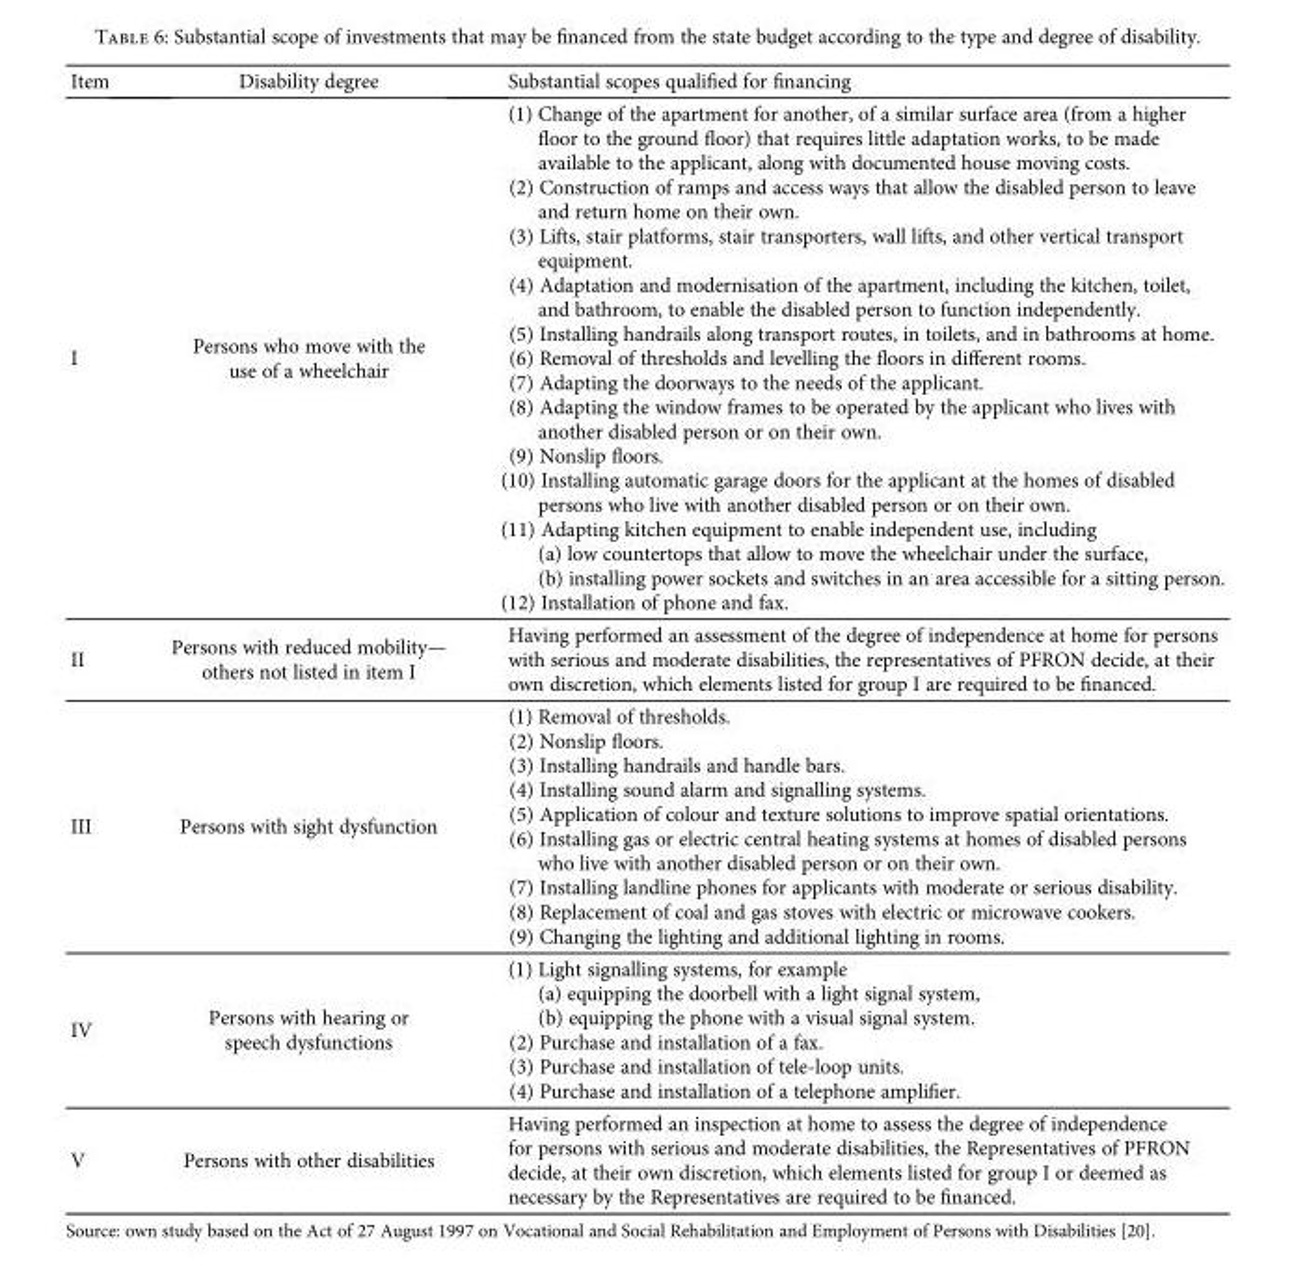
<table><thead><tr><td>Item</td><td>Disability degree</td><td>Substantial scopes qualified for financing</td></tr></thead><tbody><tr><td>I</td><td>Persons who move with the use of a wheelchair</td><td>(1) Change of the apartment for another, of a similar surface area (from a higher floor to the ground floor) that requires little adaptation works, to be made available to the applicant, along with documented house moving costs. (2) Construction of ramps and access ways that allow the disabled person to leave and return home on their own. (3) Lifts, stair platforms, stair transporters, wall lifts, and other vertical transport equipment. (4) Adaptation and modernisation of the apartment, including the kitchen, toilet, and bathroom, to enable the disabled person to function independently. (5) Installing handrails along transport routes, in toilets, and in bathrooms at home. (6) Removal of thresholds and levelling the floors in different rooms. (7) Adapting the doorways to the needs of the applicant. (8) Adapting the window frames to be operated by the applicant who lives with another disabled person or on their own. (9) Nonslip floors. (10) Installing automatic garage doors for the applicant at the homes of disabled persons who live with another disabled person or on their own. (11) Adapting kitchen equipment to enable independent use, including (a) low countertops that allow to move the wheelchair under the surface, (b) installing power sockets and switches in an area accessible for a sitting person. (12) Installation of phone and fax.</td></tr><tr><td>II</td><td>Persons with reduced mobility— others not listed in item I</td><td>Having performed an assessment of the degree of independence at home for persons with serious and moderate disabilities, the representatives of PFRON decide, at their own discretion, which elements listed for group I are required to be financed.</td></tr><tr><td>III</td><td>Persons with sight dysfunction</td><td>(1) Removal of thresholds. (2) Nonslip floors. (3) Installing handrails and handle bars. (4) Installing sound alarm and signalling systems. (5) Application of colour and texture solutions to improve spatial orientations. (6) Installing gas or electric central heating systems at homes of disabled persons who live with another disabled person or on their own. (7) Installing landline phones for applicants with moderate or serious disability. (8) Replacement of coal and gas stoves with electric or microwave cookers. (9) Changing the lighting and additional lighting in rooms.</td></tr><tr><td>IV</td><td>Persons with hearing or speech dysfunctions</td><td>(1) Light signalling systems, for example (a) equipping the doorbell with a light signal system, (b) equipping the phone with a visual signal system. (2) Purchase and installation of a fax. (3) Purchase and installation of tele-loop units. (4) Purchase and installation of a telephone amplifier.</td></tr><tr><td>V</td><td>Persons with other disabilities</td><td>Having performed an inspection at home to assess the degree of independence for persons with serious and moderate disabilities, the Representatives of PFRON decide, at their own discretion, which elements listed for group I or deemed as necessary by the Representatives are required to be financed.</td></tr></tbody></table>